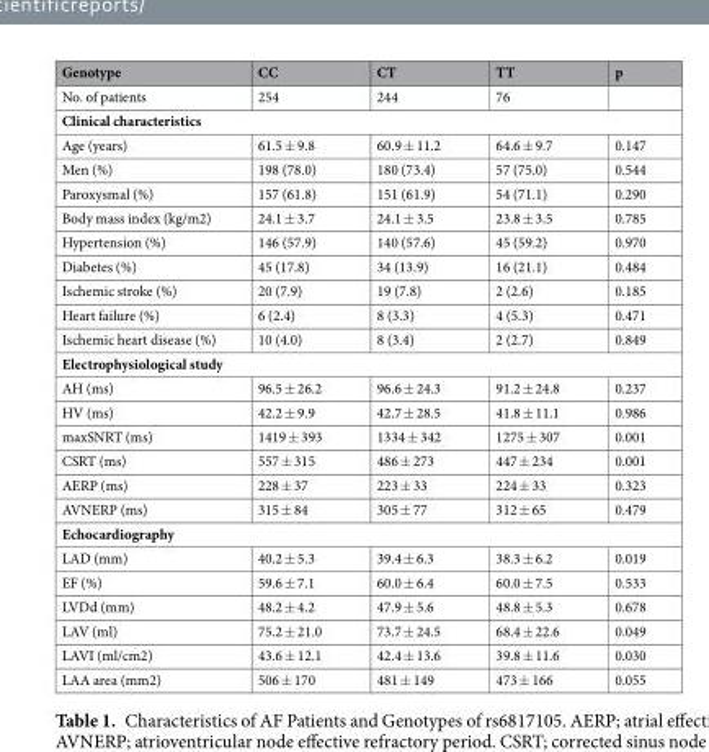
<table><thead><tr><td>Genotype</td><td>CC</td><td>CT</td><td>TT</td><td>p</td></tr></thead><tbody><tr><td>No. of patients</td><td>254</td><td>244</td><td>76</td><td></td></tr><tr><td colspan="5">Clinical characteristics</td></tr><tr><td>Age (years)</td><td>61.5 ± 9.8</td><td>60.9 ± 11.2</td><td>64.6 ± 9.7</td><td>0.147</td></tr><tr><td>Men (%)</td><td>198 (78.0)</td><td>180 (73.4)</td><td>57 (75.0)</td><td>0.544</td></tr><tr><td>Paroxysmal (%)</td><td>157 (61.8)</td><td>151 (61.9)</td><td>54 (71.1)</td><td>0.290</td></tr><tr><td>Body mass index (kg/m2)</td><td>24.1 ± 3.7</td><td>24.1 ± 3.5</td><td>23.8 ± 3.5</td><td>0.785</td></tr><tr><td>Hypertension (%)</td><td>146 (57.9)</td><td>140 (57.6)</td><td>45 (59.2)</td><td>0.970</td></tr><tr><td>Diabetes (%)</td><td>45 (17.8)</td><td>34 (13.9)</td><td>16 (21.1)</td><td>0.484</td></tr><tr><td>Ischemic stroke (%)</td><td>20 (7.9)</td><td>19 (7.8)</td><td>2 (2.6)</td><td>0.185</td></tr><tr><td>Heart failure (%)</td><td>6 (2.4)</td><td>8 (3.3)</td><td>4 (5.3)</td><td>0.471</td></tr><tr><td>Ischemic heart disease (%)</td><td>10 (4.0)</td><td>8 (3.4)</td><td>2 (2.7)</td><td>0.849</td></tr><tr><td colspan="5">Electrophysiological study</td></tr><tr><td>AH (ms)</td><td>96.5 ± 26.2</td><td>96.6 ± 24.3</td><td>91.2 ± 24.8</td><td>0.237</td></tr><tr><td>HV (ms)</td><td>42.2 ± 9.9</td><td>42.7 ± 28.5</td><td>41.8 ± 11.1</td><td>0.986</td></tr><tr><td>maxSNRT (ms)</td><td>1419 ± 393</td><td>1334 ± 342</td><td>1275 ± 307</td><td>0.001</td></tr><tr><td>CSRT (ms)</td><td>557 ± 315</td><td>486 ± 273</td><td>447 ± 234</td><td>0.001</td></tr><tr><td>AERP (ms)</td><td>228 ± 37</td><td>223 ± 33</td><td>224 ± 33</td><td>0.323</td></tr><tr><td>AVNERP (ms)</td><td>315 ± 84</td><td>305 ± 77</td><td>312 ± 65</td><td>0.479</td></tr><tr><td colspan="5">Echocardiography</td></tr><tr><td>LAD (mm)</td><td>40.2 ± 5.3</td><td>39.4 ± 6.3</td><td>38.3 ± 6.2</td><td>0.019</td></tr><tr><td>EF (%)</td><td>59.6 ± 7.1</td><td>60.0 ± 6.4</td><td>60.0 ± 7.5</td><td>0.533</td></tr><tr><td>LVDd (mm)</td><td>48.2 ± 4.2</td><td>47.9 ± 5.6</td><td>48.8 ± 5.3</td><td>0.678</td></tr><tr><td>LAV (ml)</td><td>75.2 ± 21.0</td><td>73.7 ± 24.5</td><td>68.4 ± 22.6</td><td>0.049</td></tr><tr><td>LAVI (ml/cm2)</td><td>43.6 ± 12.1</td><td>42.4 ± 13.6</td><td>39.8 ± 11.6</td><td>0.030</td></tr><tr><td>LAA area (mm2)</td><td>506 ± 170</td><td>481 ± 149</td><td>473 ± 166</td><td>0.055</td></tr></tbody></table>